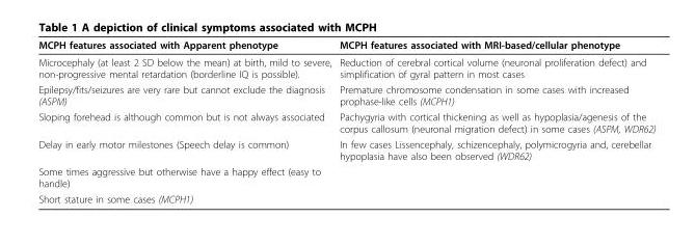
<table><thead><tr><td>MCPH features associated with Apparent phenotype</td><td>MCPH features associated with MRI-based/cellular phenotype</td></tr></thead><tbody><tr><td>Microcephaly (at least 2 SD below the mean) at birth, mild to severe, non-progressive mental retardation (borderline IQ is possible).</td><td>Reduction of cerebral cortical volume (neuronal proliferation defect) and simplification of gyral pattern in most cases</td></tr><tr><td>Epilepsy/fits/seizures are very rare but cannot exclude the diagnosis (ASPM)</td><td>Premature chromosome condensation in some cases with increased prophase-like cells (MCPH1)</td></tr><tr><td>Sloping forehead is although common but is not always associated</td><td>Pachygyria with cortical thickening as well as hypoplasia/agenesis of the corpus callosum (neuronal migration defect) in some cases (ASPM, WDR62)</td></tr><tr><td>Delay in early motor milestones (Speech delay is common)</td><td>In few cases Lissencephaly, schizencephaly, polymicrogyria and, cerebellar hypoplasia have also been observed (WDR62)</td></tr><tr><td colspan="2">Some times aggressive but otherwise have a happy effect (easy to handle)</td></tr><tr><td>Short stature in some cases (MCPH1)</td><td></td></tr></tbody></table>